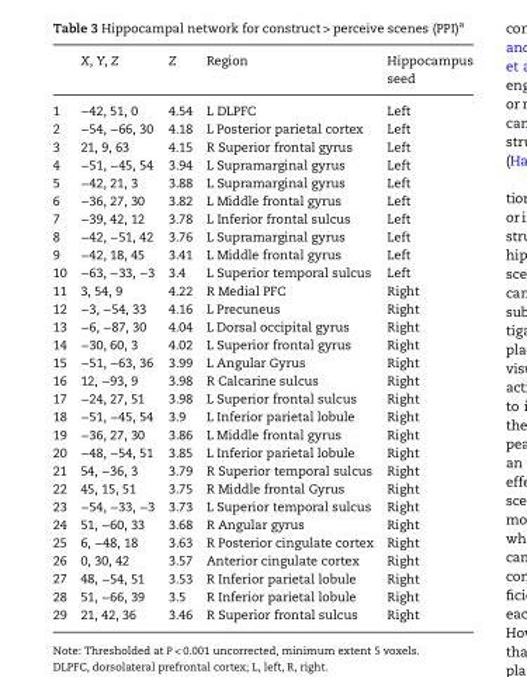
<table><thead><tr><td></td><td>X, Y, Z</td><td>Z</td><td>Region</td><td>Hippocampus seed</td></tr></thead><tbody><tr><td>1</td><td>−42, 51, 0</td><td>4.54</td><td>L DLPFC</td><td>Left</td></tr><tr><td>2</td><td>−54, −66, 30</td><td>4.18</td><td>L Posterior parietal cortex</td><td>Left</td></tr><tr><td>3</td><td>21, 9, 63</td><td>4.15</td><td>R Superior frontal gyrus</td><td>Left</td></tr><tr><td>4</td><td>−51, −45, 54</td><td>3.94</td><td>L Supramarginal gyrus</td><td>Left</td></tr><tr><td>5</td><td>−42, 21, 3</td><td>3.88</td><td>L Supramarginal gyrus</td><td>Left</td></tr><tr><td>6</td><td>−36, 27, 30</td><td>3.82</td><td>L Middle frontal gyrus</td><td>Left</td></tr><tr><td>7</td><td>−39, 42, 12</td><td>3.78</td><td>L Inferior frontal sulcus</td><td>Left</td></tr><tr><td>8</td><td>−42, −51, 42</td><td>3.76</td><td>L Supramarginal gyrus</td><td>Left</td></tr><tr><td>9</td><td>−42, 18, 45</td><td>3.41</td><td>L Middle frontal gyrus</td><td>Left</td></tr><tr><td>10</td><td>−63, −33, −3</td><td>3.4</td><td>L Superior temporal sulcus</td><td>Left</td></tr><tr><td>11</td><td>3, 54, 9</td><td>4.22</td><td>R Medial PFC</td><td>Right</td></tr><tr><td>12</td><td>−3, −54, 33</td><td>4.16</td><td>L Precuneus</td><td>Right</td></tr><tr><td>13</td><td>−6, −87, 30</td><td>4.04</td><td>L Dorsal occipital gyrus</td><td>Right</td></tr><tr><td>14</td><td>−30, 60, 3</td><td>4.02</td><td>L Superior frontal gyrus</td><td>Right</td></tr><tr><td>15</td><td>−51, −63, 36</td><td>3.99</td><td>L Angular Gyrus</td><td>Right</td></tr><tr><td>16</td><td>12, −93, 9</td><td>3.98</td><td>R Calcarine sulcus</td><td>Right</td></tr><tr><td>17</td><td>−24, 27, 51</td><td>3.98</td><td>L Superior frontal sulcus</td><td>Right</td></tr><tr><td>18</td><td>−51, −45, 54</td><td>3.9</td><td>L Inferior parietal lobule</td><td>Right</td></tr><tr><td>19</td><td>−36, 27, 30</td><td>3.86</td><td>L Middle frontal gyrus</td><td>Right</td></tr><tr><td>20</td><td>−48, −54, 51</td><td>3.85</td><td>L Inferior parietal lobule</td><td>Right</td></tr><tr><td>21</td><td>54, −36, 3</td><td>3.79</td><td>R Superior temporal sulcus</td><td>Right</td></tr><tr><td>22</td><td>45, 15, 51</td><td>3.75</td><td>R Middle frontal Gyrus</td><td>Right</td></tr><tr><td>23</td><td>−54, −33, −3</td><td>3.73</td><td>L Superior temporal sulcus</td><td>Right</td></tr><tr><td>24</td><td>51, −60, 33</td><td>3.68</td><td>R Angular gyrus</td><td>Right</td></tr><tr><td>25</td><td>6, −48, 18</td><td>3.63</td><td>R Posterior cingulate cortex</td><td>Right</td></tr><tr><td>26</td><td>0, 30, 42</td><td>3.57</td><td>Anterior cingulate cortex</td><td>Right</td></tr><tr><td>27</td><td>48, −54, 51</td><td>3.53</td><td>R Inferior parietal lobule</td><td>Right</td></tr><tr><td>28</td><td>51, −66, 39</td><td>3.5</td><td>R Inferior parietal lobule</td><td>Right</td></tr><tr><td>29</td><td>21, 42, 36</td><td>3.46</td><td>R Superior frontal sulcus</td><td>Right</td></tr></tbody></table>